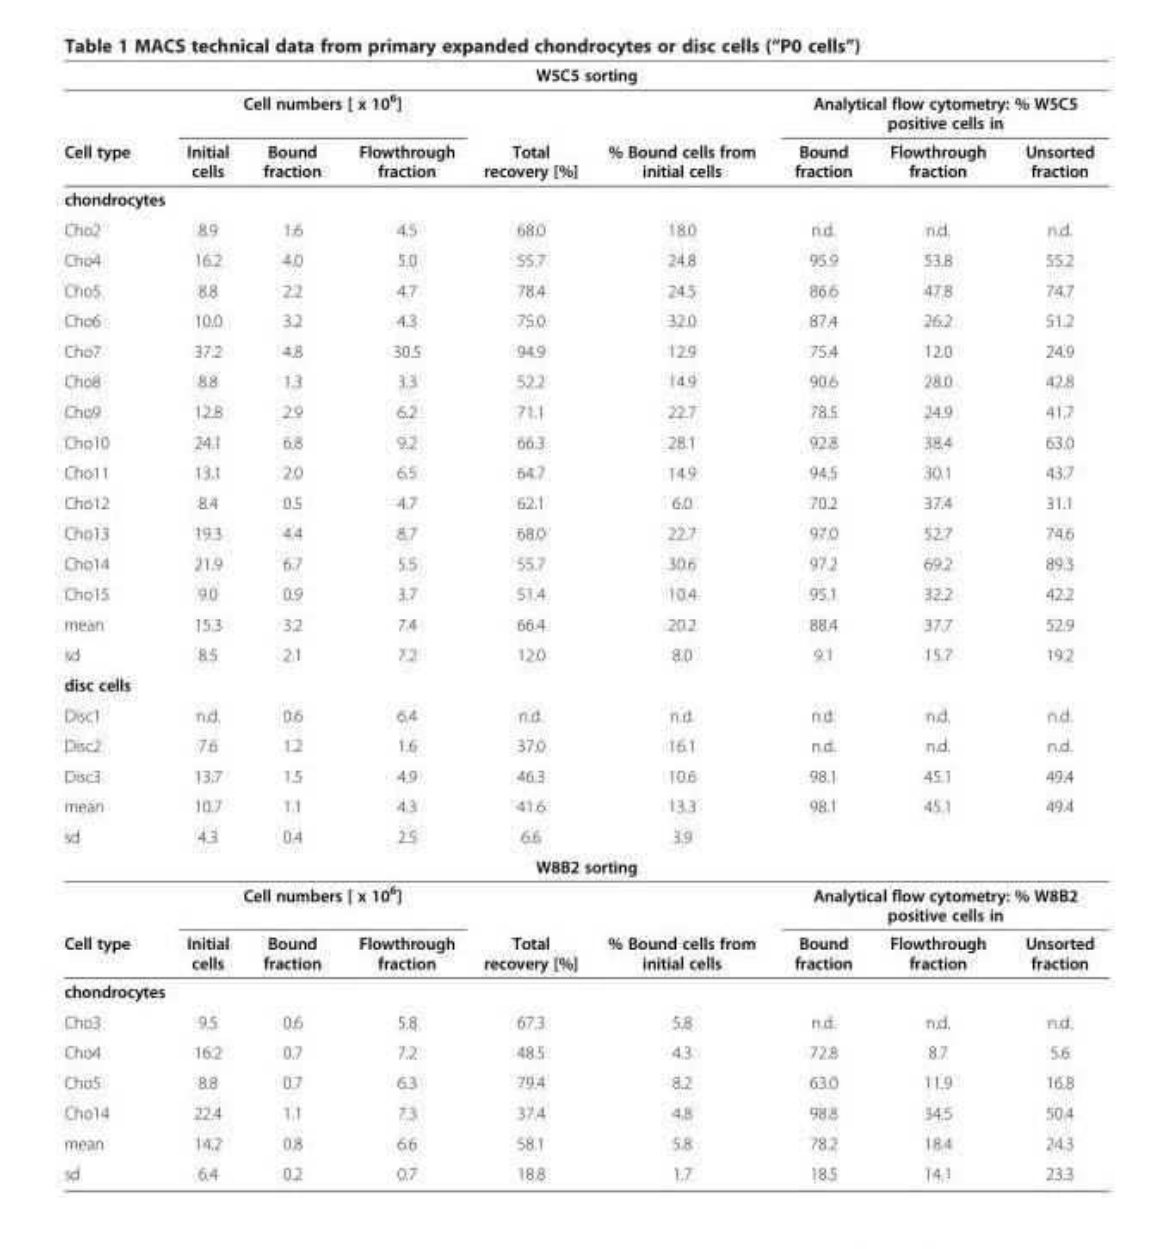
<table><thead><tr><td colspan="9">W5C5 sorting</td></tr><tr><td rowspan="2">Cell type</td><td colspan="3">Cell numbers [ x 10<sup>6</sup>]</td><td rowspan="2">Total recovery [%]</td><td rowspan="2">% Bound cells from initial cells</td><td colspan="3">Analytical flow cytometry: % W5C5 positive cells in</td></tr><tr><td>Initial cells</td><td>Bound fraction</td><td>Flowthrough fraction</td><td>Bound fraction</td><td>Flowthrough fraction</td><td>Unsorted fraction</td></tr></thead><tbody><tr><td colspan="9">chondrocytes</td></tr><tr><td>Cho2</td><td>8.9</td><td>1.6</td><td>4.5</td><td>68.0</td><td>18.0</td><td>n.d.</td><td>n.d.</td><td>n.d.</td></tr><tr><td>Cho4</td><td>16.2</td><td>4.0</td><td>5.0</td><td>55.7</td><td>24.8</td><td>95.9</td><td>53.8</td><td>55.2</td></tr><tr><td>Cho5</td><td>8.8</td><td>2.2</td><td>4.7</td><td>78.4</td><td>24.5</td><td>86.6</td><td>47.8</td><td>74.7</td></tr><tr><td>Cho6</td><td>10.0</td><td>3.2</td><td>4.3</td><td>75.0</td><td>32.0</td><td>87.4</td><td>26.2</td><td>51.2</td></tr><tr><td>Cho7</td><td>37.2</td><td>4.8</td><td>30.5</td><td>94.9</td><td>12.9</td><td>75.4</td><td>12.0</td><td>24.9</td></tr><tr><td>Cho8</td><td>8.8</td><td>1.3</td><td>3.3</td><td>52.2</td><td>14.9</td><td>90.6</td><td>28.0</td><td>42.8</td></tr><tr><td>Cho9</td><td>12.8</td><td>2.9</td><td>6.2</td><td>71.1</td><td>22.7</td><td>78.5</td><td>24.9</td><td>41.7</td></tr><tr><td>Cho10</td><td>24.1</td><td>6.8</td><td>9.2</td><td>66.3</td><td>28.1</td><td>92.8</td><td>38.4</td><td>63.0</td></tr><tr><td>Cho11</td><td>13.1</td><td>2.0</td><td>6.5</td><td>64.7</td><td>14.9</td><td>94.5</td><td>30.1</td><td>43.7</td></tr><tr><td>Cho12</td><td>8.4</td><td>0.5</td><td>4.7</td><td>62.1</td><td>6.0</td><td>70.2</td><td>37.4</td><td>31.1</td></tr><tr><td>Cho13</td><td>19.3</td><td>4.4</td><td>8.7</td><td>68.0</td><td>22.7</td><td>97.0</td><td>52.7</td><td>74.6</td></tr><tr><td>Cho14</td><td>21.9</td><td>6.7</td><td>5.5</td><td>55.7</td><td>30.6</td><td>97.2</td><td>69.2</td><td>89.3</td></tr><tr><td>Cho15</td><td>9.0</td><td>0.9</td><td>3.7</td><td>51.4</td><td>10.4</td><td>95.1</td><td>32.2</td><td>42.2</td></tr><tr><td>mean</td><td>15.3</td><td>3.2</td><td>7.4</td><td>66.4</td><td>20.2</td><td>88.4</td><td>37.7</td><td>52.9</td></tr><tr><td>sd</td><td>8.5</td><td>2.1</td><td>7.2</td><td>12.0</td><td>8.0</td><td>9.1</td><td>15.7</td><td>19.2</td></tr><tr><td colspan="9">disc cells</td></tr><tr><td>Disc1</td><td>n.d.</td><td>0.6</td><td>6.4</td><td>n.d.</td><td>n.d.</td><td>n.d.</td><td>n.d.</td><td>n.d.</td></tr><tr><td>Disc2</td><td>7.6</td><td>1.2</td><td>1.6</td><td>37.0</td><td>16.1</td><td>n.d.</td><td>n.d.</td><td>n.d.</td></tr><tr><td>Disc3</td><td>13.7</td><td>1.5</td><td>4.9</td><td>46.3</td><td>10.6</td><td>98.1</td><td>45.1</td><td>49.4</td></tr><tr><td>mean</td><td>10.7</td><td>1.1</td><td>4.3</td><td>41.6</td><td>13.3</td><td>98.1</td><td>45.1</td><td>49.4</td></tr><tr><td>sd</td><td>4.3</td><td>0.4</td><td>2.5</td><td>6.6</td><td>3.9</td><td></td><td></td><td></td></tr><tr><td colspan="9">W8B2 sorting</td></tr><tr><td></td><td colspan="3">Cell numbers [ x 10<sup>6</sup>]</td><td></td><td></td><td colspan="3">Analytical flow cytometry: % W8B2 positive cells in</td></tr><tr><td>Cell type</td><td>Initial cells</td><td>Bound fraction</td><td>Flowthrough fraction</td><td>Total recovery [%]</td><td>% Bound cells from initial cells</td><td>Bound fraction</td><td>Flowthrough fraction</td><td>Unsorted fraction</td></tr><tr><td colspan="9">chondrocytes</td></tr><tr><td>Cho3</td><td>9.5</td><td>0.6</td><td>5.8</td><td>67.3</td><td>5.8</td><td>n.d.</td><td>n.d.</td><td>n.d.</td></tr><tr><td>Cho4</td><td>16.2</td><td>0.7</td><td>7.2</td><td>48.5</td><td>4.3</td><td>72.8</td><td>8.7</td><td>5.6</td></tr><tr><td>Cho5</td><td>8.8</td><td>0.7</td><td>6.3</td><td>79.4</td><td>8.2</td><td>63.0</td><td>11.9</td><td>16.8</td></tr><tr><td>Cho14</td><td>22.4</td><td>1.1</td><td>7.3</td><td>37.4</td><td>4.8</td><td>98.8</td><td>34.5</td><td>50.4</td></tr><tr><td>mean</td><td>14.2</td><td>0.8</td><td>6.6</td><td>58.1</td><td>5.8</td><td>78.2</td><td>18.4</td><td>24.3</td></tr><tr><td>sd</td><td>6.4</td><td>0.2</td><td>0.7</td><td>18.8</td><td>1.7</td><td>18.5</td><td>14.1</td><td>23.3</td></tr></tbody></table>